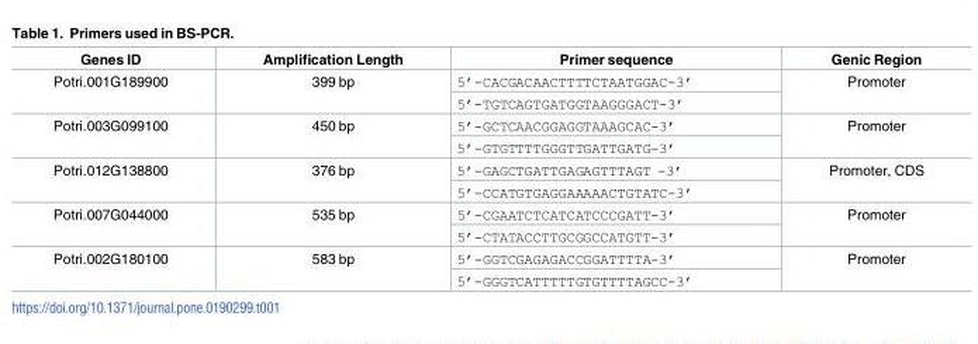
<table><thead><tr><td>Genes ID</td><td>Amplification Length</td><td>Primer sequence</td><td>Genic Region</td></tr></thead><tbody><tr><td rowspan="2">Potri.001G189900</td><td rowspan="2">399 bp</td><td>5’-CACGACAACTTTTCTAATGGAC-3’</td><td rowspan="2">Promoter</td></tr><tr><td>5’-TGTCAGTGATGGTAAGGGACT-3’</td></tr><tr><td rowspan="2">Potri.003G099100</td><td rowspan="2">450 bp</td><td>5’-GCTCAACGGAGGTAAAGCAC-3’</td><td rowspan="2">Promoter</td></tr><tr><td>5’-GTGTTTTGGGTTGATTGATG-3’</td></tr><tr><td rowspan="2">Potri.012G138800</td><td rowspan="2">376 bp</td><td>5’-GAGCTGATTGAGAGTTTAGT -3’</td><td rowspan="2">Promoter, CDS</td></tr><tr><td>5’-CCATGTGAGGAAAAACTGTATC-3’</td></tr><tr><td rowspan="2">Potri.007G044000</td><td rowspan="2">535 bp</td><td>5’-CGAATCTCATCATCCCGATT-3’</td><td rowspan="2">Promoter</td></tr><tr><td>5’-CTATACCTTGCGGCCATGTT-3’</td></tr><tr><td rowspan="2">Potri.002G180100</td><td rowspan="2">583 bp</td><td>5’-GGTCGAGAGACCGGATTTTA-3’</td><td rowspan="2">Promoter</td></tr><tr><td>5’-GGGTCATTTTTGTGTTTTAGCC-3’</td></tr></tbody></table>